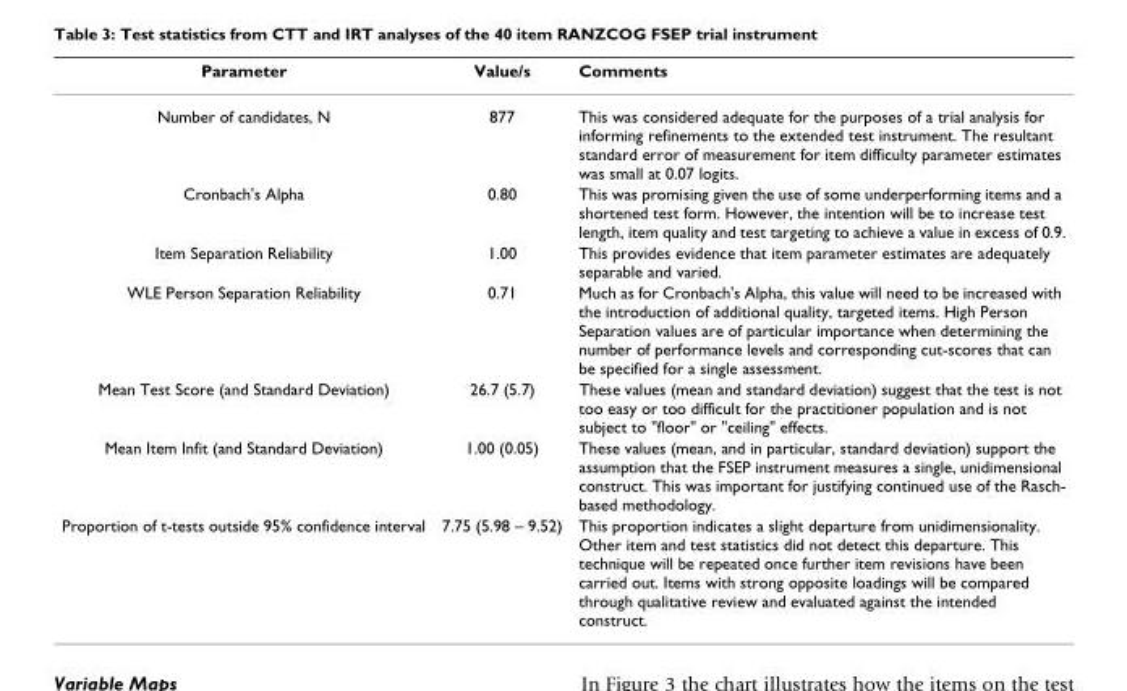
<table><thead><tr><td>Parameter</td><td>Value/s</td><td>Comments</td></tr></thead><tbody><tr><td>Number of candidates, N</td><td>877</td><td>This was considered adequate for the purposes of a trial analysis for informing refinements to the extended test instrument. The resultant standard error of measurement for item difficulty parameter estimates was small at 0.07 logits.</td></tr><tr><td>Cronbach&#x27;s Alpha</td><td>0.80</td><td>This was promising given the use of some underperforming items and a shortened test form. However, the intention will be to increase test length, item quality and test targeting to achieve a value in excess of 0.9.</td></tr><tr><td>Item Separation Reliability</td><td>1.00</td><td>This provides evidence that item parameter estimates are adequately separable and varied.</td></tr><tr><td>WLE Person Separation Reliability</td><td>0.71</td><td>Much as for Cronbach&#x27;s Alpha, this value will need to be increased with the introduction of additional quality, targeted items. High Person Separation values are of particular importance when determining the number of performance levels and corresponding cut-scores that can be specified for a single assessment.</td></tr><tr><td>Mean Test Score (and Standard Deviation)</td><td>26.7 (5.7)</td><td>These values (mean and standard deviation) suggest that the test is not too easy or too difficult for the practitioner population and is not subject to &quot;floor&quot; or &quot;ceiling&quot; effects.</td></tr><tr><td>Mean Item Infit (and Standard Deviation)</td><td>1.00 (0.05)</td><td>These values (mean, and in particular, standard deviation) support the assumption that the FSEP instrument measures a single, unidimensional construct. This was important for justifying continued use of the Rasch- based methodology.</td></tr><tr><td>Proportion of t-tests outside 95% confidence interval</td><td>7.75 (5.98 – 9.52)</td><td>This proportion indicates a slight departure from unidimensionality. Other item and test statistics did not detect this departure. This technique will be repeated once further item revisions have been carried out. Items with strong opposite loadings will be compared through qualitative review and evaluated against the intended construct.</td></tr></tbody></table>